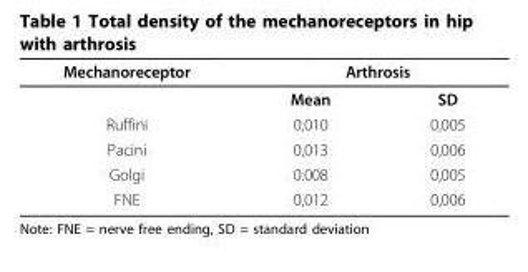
<table><thead><tr><td rowspan="2">Mechanoreceptor</td><td colspan="2">Arthrosis</td></tr><tr><td>Mean</td><td>SD</td></tr></thead><tbody><tr><td>Ruffini</td><td>0,010</td><td>0,005</td></tr><tr><td>Pacini</td><td>0,013</td><td>0,006</td></tr><tr><td>Golgi</td><td>0.008</td><td>0,005</td></tr><tr><td>FNE</td><td>0,012</td><td>0,006</td></tr></tbody></table>